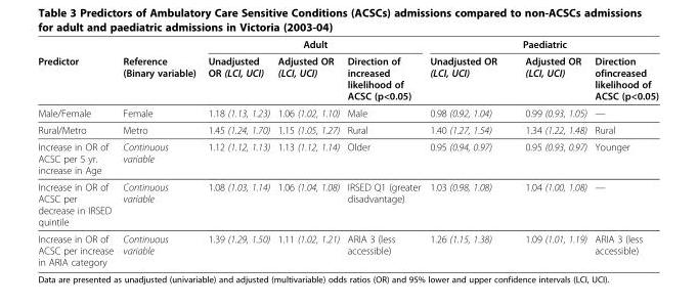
<table><thead><tr><td rowspan="2">Predictor</td><td rowspan="2">Reference (Binary variable)</td><td colspan="3">Adult</td><td colspan="3">Paediatric</td></tr><tr><td>Unadjusted OR (LCI, UCI)</td><td>Adjusted OR (LCI, UCI)</td><td>Direction of increased likelihood of ACSC (p&lt;0.05)</td><td>Unadjusted OR (LCI, UCI)</td><td>Adjusted OR (LCI, UCI)</td><td>Direction ofincreased likelihood of ACSC (p&lt;0.05)</td></tr></thead><tbody><tr><td>Male/Female</td><td>Female</td><td>1.18 (1.13, 1.23)</td><td>1.06 (1.02, 1.10)</td><td>Male</td><td>0.98 (0.92, 1.04)</td><td>0.99 (0.93, 1.05)</td><td>—</td></tr><tr><td>Rural/Metro</td><td>Metro</td><td>1.45 (1.24, 1.70)</td><td>1.15 (1.05, 1.27)</td><td>Rural</td><td>1.40 (1.27, 1.54)</td><td>1.34 (1.22, 1.48)</td><td>Rural</td></tr><tr><td>Increase in OR of ACSC per 5 yr. increase in Age</td><td>Continuous variable</td><td>1.12 (1.12, 1.13)</td><td>1.13 (1.12, 1.14)</td><td>Older</td><td>0.95 (0.94, 0.97)</td><td>0.95 (0.93, 0.97)</td><td>Younger</td></tr><tr><td>Increase in OR of ACSC per decrease in IRSED quintile</td><td>Continuous variable</td><td>1.08 (1.03, 1.14)</td><td>1.06 (1.04, 1.08)</td><td>IRSED Q1 (greater disadvantage)</td><td>1.03 (0.98, 1.08)</td><td>1.04 (1.00, 1.08)</td><td>—</td></tr><tr><td>Increase in OR of ACSC per increase in ARIA category</td><td>Continuous variable</td><td>1.39 (1.29, 1.50)</td><td>1.11 (1.02, 1.21)</td><td>ARIA 3 (less accessible)</td><td>1.26 (1.15, 1.38)</td><td>1.09 (1.01, 1.19)</td><td>ARIA 3 (less accessible)</td></tr></tbody></table>